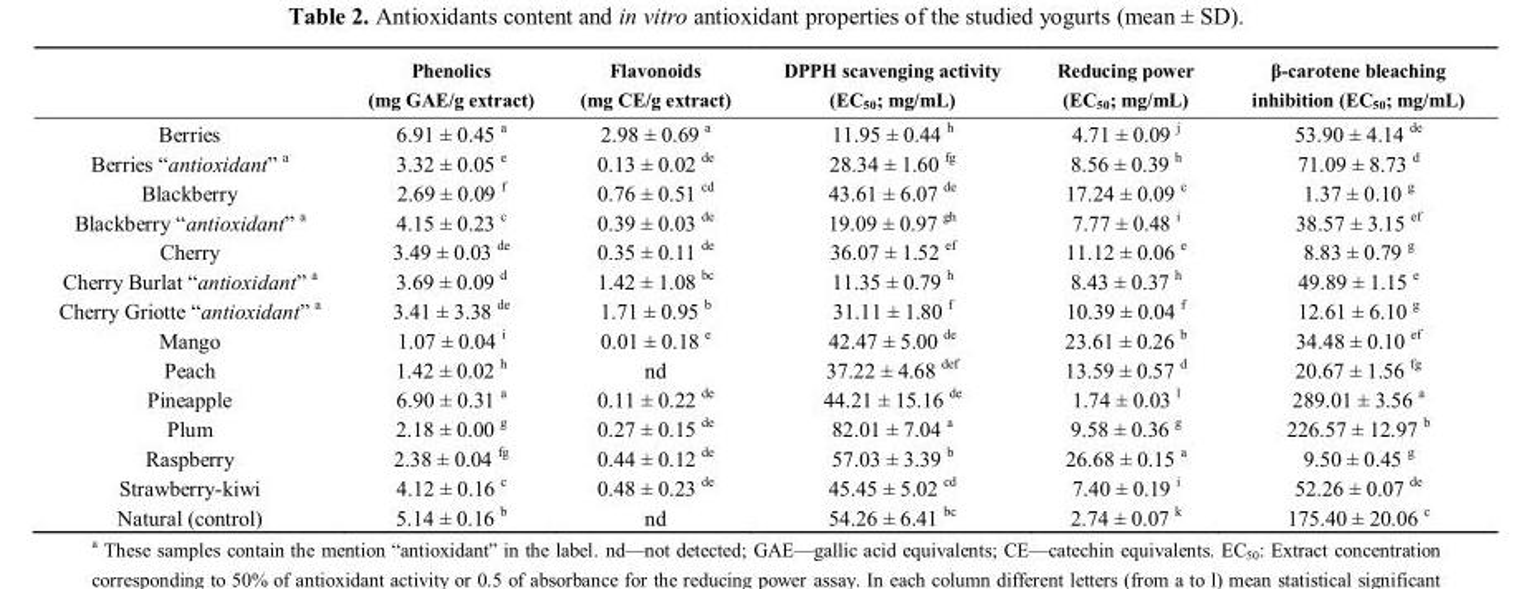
<table><thead><tr><td></td><td>Phenolics (mg GAE/g extract)</td><td>Flavonoids (mg CE/g extract)</td><td>DPPH scavenging activity (EC<sub>50</sub>; mg/mL)</td><td>Reducing power (EC<sub>50</sub>; mg/mL)</td><td>β-carotene bleaching inhibition (EC<sub>50</sub>; mg/mL)</td></tr></thead><tbody><tr><td>Berries</td><td>6.91 ± 0.45 <sup>a</sup></td><td>2.98 ± 0.69 <sup>a</sup></td><td>11.95 ± 0.44 <sup>h</sup></td><td>4.71 ± 0.09 <sup>j</sup></td><td>53.90 ± 4.14 <sup>de</sup></td></tr><tr><td>Berries ―antioxidant‖ a</td><td>3.32 ± 0.05 <sup>e</sup></td><td>0.13 ± 0.02 <sup>de</sup></td><td>28.34 ± 1.60 <sup>fg</sup></td><td>8.56 ± 0.39 <sup>h</sup></td><td>71.09 ± 8.73 <sup>d</sup></td></tr><tr><td>Blackberry</td><td>2.69 ± 0.09 <sup>f</sup></td><td>0.76 ± 0.51 <sup>cd</sup></td><td>43.61 ± 6.07 <sup>de</sup></td><td>17.24 ± 0.09 <sup>c</sup></td><td>1.37 ± 0.10 <sup>g</sup></td></tr><tr><td>Blackberry ―antioxidant‖ a</td><td>4.15 ± 0.23 <sup>c</sup></td><td>0.39 ± 0.03 <sup>de</sup></td><td>19.09 ± 0.97 <sup>gh</sup></td><td>7.77 ± 0.48 <sup>i</sup></td><td>38.57 ± 3.15 <sup>ef</sup></td></tr><tr><td>Cherry</td><td>3.49 ± 0.03 <sup>de</sup></td><td>0.35 ± 0.11 <sup>de</sup></td><td>36.07 ± 1.52 <sup>ef</sup></td><td>11.12 ± 0.06 <sup>e</sup></td><td>8.83 ± 0.79 <sup>g</sup></td></tr><tr><td>Cherry Burlat ―antioxidant‖ a</td><td>3.69 ± 0.09 <sup>d</sup></td><td>1.42 ± 1.08 <sup>bc</sup></td><td>11.35 ± 0.79 <sup>h</sup></td><td>8.43 ± 0.37 <sup>h</sup></td><td>49.89 ± 1.15 <sup>e</sup></td></tr><tr><td>Cherry Griotte ―antioxidant‖ a</td><td>3.41 ± 3.38 <sup>de</sup></td><td>1.71 ± 0.95 <sup>b</sup></td><td>31.11 ± 1.80 <sup>f</sup></td><td>10.39 ± 0.04 <sup>f</sup></td><td>12.61 ± 6.10 <sup>g</sup></td></tr><tr><td>Mango</td><td>1.07 ± 0.04 <sup>i</sup></td><td>0.01 ± 0.18 <sup>e</sup></td><td>42.47 ± 5.00 <sup>de</sup></td><td>23.61 ± 0.26 <sup>b</sup></td><td>34.48 ± 0.10 <sup>ef</sup></td></tr><tr><td>Peach</td><td>1.42 ± 0.02 <sup>h</sup></td><td>nd</td><td>37.22 ± 4.68 <sup>def</sup></td><td>13.59 ± 0.57 <sup>d</sup></td><td>20.67 ± 1.56 <sup>fg</sup></td></tr><tr><td>Pineapple</td><td>6.90 ± 0.31 <sup>a</sup></td><td>0.11 ± 0.22 <sup>de</sup></td><td>44.21 ± 15.16 <sup>de</sup></td><td>1.74 ± 0.03 <sup>l</sup></td><td>289.01 ± 3.56 <sup>a</sup></td></tr><tr><td>Plum</td><td>2.18 ± 0.00 <sup>g</sup></td><td>0.27 ± 0.15 <sup>de</sup></td><td>82.01 ± 7.04 <sup>a</sup></td><td>9.58 ± 0.36 <sup>g</sup></td><td>226.57 ± 12.97 <sup>b</sup></td></tr><tr><td>Raspberry</td><td>2.38 ± 0.04 <sup>fg</sup></td><td>0.44 ± 0.12 <sup>de</sup></td><td>57.03 ± 3.39 <sup>b</sup></td><td>26.68 ± 0.15 <sup>a</sup></td><td>9.50 ± 0.45 <sup>g</sup></td></tr><tr><td>Strawberry-kiwi</td><td>4.12 ± 0.16 <sup>c</sup></td><td>0.48 ± 0.23 <sup>de</sup></td><td>45.45 ± 5.02 <sup>cd</sup></td><td>7.40 ± 0.19 <sup>i</sup></td><td>52.26 ± 0.07 <sup>de</sup></td></tr><tr><td>Natural (control)</td><td>5.14 ± 0.16 <sup>b</sup></td><td>nd</td><td>54.26 ± 6.41 <sup>bc</sup></td><td>2.74 ± 0.07 <sup>k</sup></td><td>175.40 ± 20.06 <sup>c</sup></td></tr></tbody></table>